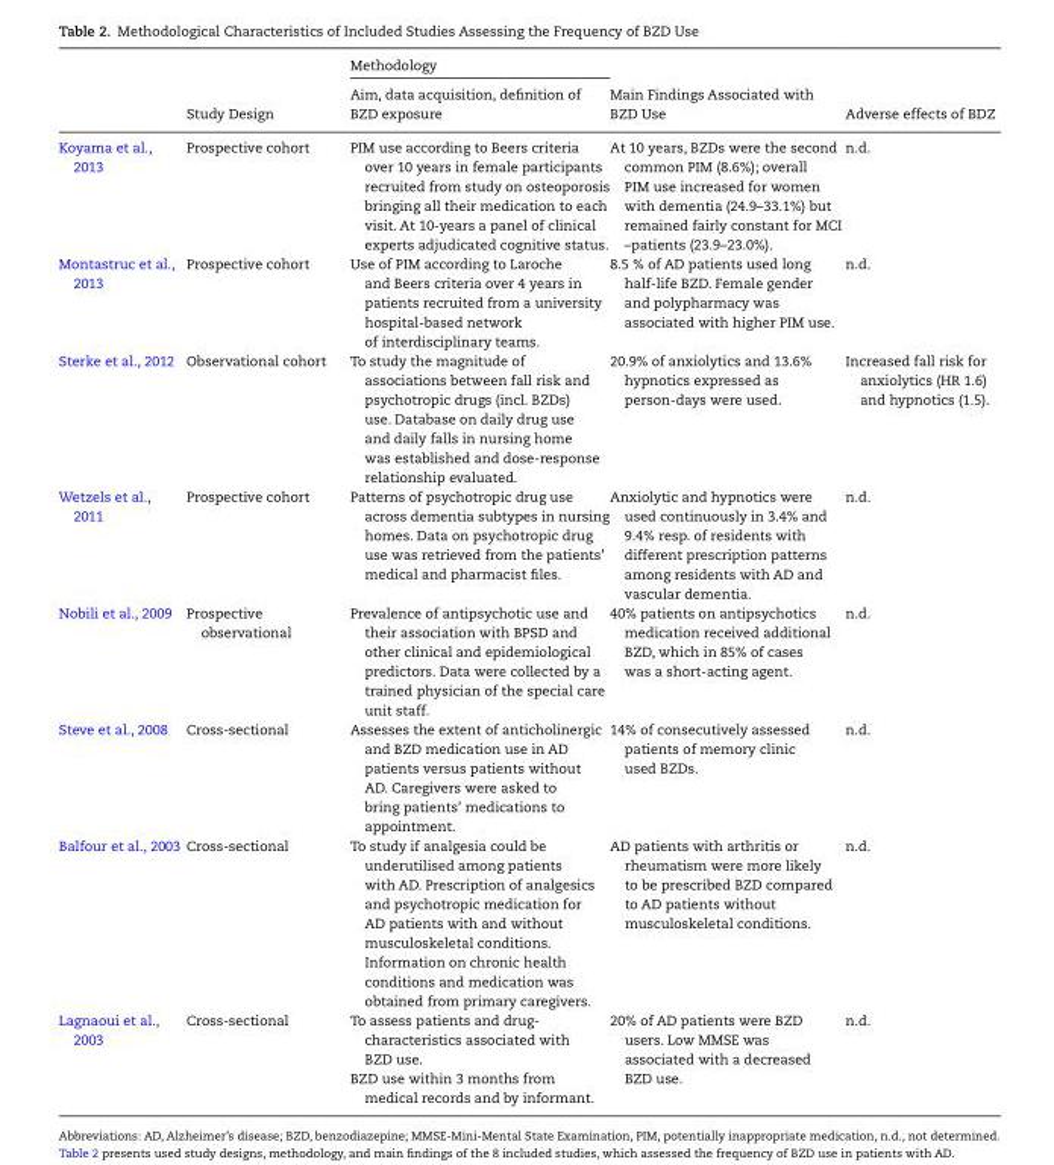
<table><thead><tr><td></td><td>Study Design</td><td>Methodology Aim, data acquisition, definition of BZD exposure</td><td>Main Findings Associated with BZD Use</td><td>Adverse effects of BDZ</td></tr></thead><tbody><tr><td>Koyama et al., 2013</td><td>Prospective cohort</td><td>PIM use according to Beers criteria over 10 years in female participants recruited from study on osteoporosis bringing all their medication to each visit. At 10-years a panel of clinical experts adjudicated cognitive status.</td><td>At 10 years, BZDs were the second common PIM (8.6%); overall PIM use increased for women with dementia (24.9–33.1%) but remained fairly constant for MCI –patients (23.9–23.0%).</td><td>n.d.</td></tr><tr><td>Montastruc et al., 2013</td><td>Prospective cohort</td><td>Use of PIM according to Laroche and Beers criteria over 4 years in patients recruited from a university hospital-based network of interdisciplinary teams.</td><td>8.5 % of AD patients used long half-life BZD. Female gender and polypharmacy was associated with higher PIM use.</td><td>n.d.</td></tr><tr><td>Sterke et al., 2012</td><td>Observational cohort</td><td>To study the magnitude of associations between fall risk and psychotropic drugs (incl. BZDs) use. Database on daily drug use and daily falls in nursing home was established and dose-response relationship evaluated.</td><td>20.9% of anxiolytics and 13.6% hypnotics expressed as person-days were used.</td><td>Increased fall risk for anxiolytics (HR 1.6) and hypnotics (1.5).</td></tr><tr><td>Wetzels et al., 2011</td><td>Prospective cohort</td><td>Patterns of psychotropic drug use across dementia subtypes in nursing homes. Data on psychotropic drug use was retrieved from the patients’ medical and pharmacist files.</td><td>Anxiolytic and hypnotics were used continuously in 3.4% and 9.4% resp. of residents with different prescription patterns among residents with AD and vascular dementia.</td><td>n.d.</td></tr><tr><td>Nobili et al., 2009</td><td>Prospective observational</td><td>Prevalence of antipsychotic use and their association with BPSD and other clinical and epidemiological predictors. Data were collected by a trained physician of the special care unit staff.</td><td>40% patients on antipsychotics medication received additional BZD, which in 85% of cases was a short-acting agent.</td><td>n.d.</td></tr><tr><td>Steve et al., 2008</td><td>Cross-sectional</td><td>Assesses the extent of anticholinergic and BZD medication use in AD patients versus patients without AD. Caregivers were asked to bring patients’ medications to appointment.</td><td>14% of consecutively assessed patients of memory clinic used BZDs.</td><td>n.d.</td></tr><tr><td>Balfour et al., 2003</td><td>Cross-sectional</td><td>To study if analgesia could be underutilised among patients with AD. Prescription of analgesics and psychotropic medication for AD patients with and without musculoskeletal conditions. Information on chronic health conditions and medication was obtained from primary caregivers.</td><td>AD patients with arthritis or rheumatism were more likely to be prescribed BZD compared to AD patients without musculoskeletal conditions.</td><td>n.d.</td></tr><tr><td>Lagnaoui et al., 2003</td><td>Cross-sectional</td><td>To assess patients and drug- characteristics associated with BZD use. BZD use within 3 months from medical records and by informant.</td><td>20% of AD patients were BZD users. Low MMSE was associated with a decreased BZD use.</td><td>n.d.</td></tr></tbody></table>